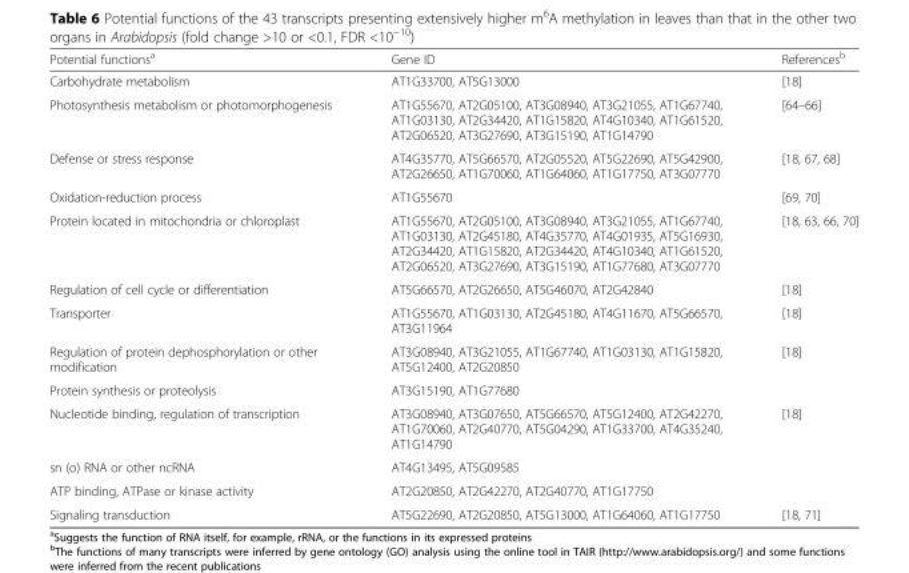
<table><thead><tr><td>Potential functions<sup>a</sup></td><td>Gene ID</td><td>References<sup>b</sup></td></tr></thead><tbody><tr><td>Carbohydrate metabolism</td><td>AT1G33700, AT5G13000</td><td>[18]</td></tr><tr><td>Photosynthesis metabolism or photomorphogenesis</td><td>AT1G55670, AT2G05100, AT3G08940, AT3G21055, AT1G67740, AT1G03130, AT2G34420, AT1G15820, AT4G10340, AT1G61520, AT2G06520, AT3G27690, AT3G15190, AT1G14790</td><td>[64–66]</td></tr><tr><td>Defense or stress response</td><td>AT4G35770, AT5G66570, AT2G05520, AT5G22690, AT5G42900, AT2G26650, AT1G70060, AT1G64060, AT1G17750, AT3G07770</td><td>[18, 67, 68]</td></tr><tr><td>Oxidation-reduction process</td><td>AT1G55670</td><td>[69, 70]</td></tr><tr><td>Protein located in mitochondria or chloroplast</td><td>AT1G55670, AT2G05100, AT3G08940, AT3G21055, AT1G67740, AT1G03130, AT2G45180, AT4G35770, AT4G01935, AT5G16930, AT2G34420, AT1G15820, AT2G34420, AT4G10340, AT1G61520, AT2G06520, AT3G27690, AT3G15190, AT1G77680, AT3G07770</td><td>[18, 63, 66, 70]</td></tr><tr><td>Regulation of cell cycle or differentiation</td><td>AT5G66570, AT2G26650, AT5G46070, AT2G42840</td><td>[18]</td></tr><tr><td>Transporter</td><td>AT1G55670, AT1G03130, AT2G45180, AT4G11670, AT5G66570, AT3G11964</td><td>[18]</td></tr><tr><td>Regulation of protein dephosphorylation or other modification</td><td>AT3G08940, AT3G21055, AT1G67740, AT1G03130, AT1G15820, AT5G12400, AT2G20850</td><td>[18]</td></tr><tr><td>Protein synthesis or proteolysis</td><td>AT3G15190, AT1G77680</td><td></td></tr><tr><td>Nucleotide binding, regulation of transcription</td><td>AT3G08940, AT3G07650, AT5G66570, AT5G12400, AT2G42270, AT1G70060, AT2G40770, AT5G04290, AT1G33700, AT4G35240, AT1G14790</td><td>[18]</td></tr><tr><td>sn (o) RNA or other ncRNA</td><td>AT4G13495, AT5G09585</td><td></td></tr><tr><td>ATP binding, ATPase or kinase activity</td><td>AT2G20850, AT2G42270, AT2G40770, AT1G17750</td><td></td></tr><tr><td>Signaling transduction</td><td>AT5G22690, AT2G20850, AT5G13000, AT1G64060, AT1G17750</td><td>[18, 71]</td></tr></tbody></table>